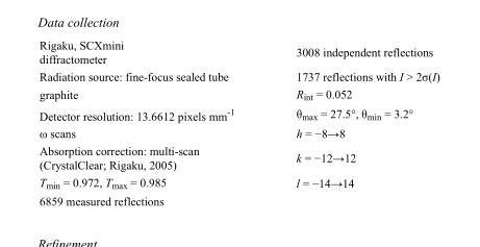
<table><tbody><tr><td>Rigaku, SCXmini diffractometer</td><td>3008 independent reflections</td></tr><tr><td>Radiation source: fine-focus sealed tube</td><td>1737 reflections with I &gt; 2σ(I)</td></tr><tr><td>graphite</td><td>R<sub>int</sub> = 0.052</td></tr><tr><td>Detector resolution: 13.6612 pixels mm<sup>-1</sup></td><td>θ<sub>max</sub> = 27.5°, θ<sub>min</sub> = 3.2°</td></tr><tr><td>ω scans</td><td>h = −8→8</td></tr><tr><td>Absorption correction: multi-scan (CrystalClear; Rigaku, 2005)</td><td>k = −12→12</td></tr><tr><td>T<sub>min</sub> = 0.972, T<sub>max</sub> = 0.985</td><td>l = −14→14</td></tr><tr><td>6859 measured reflections</td><td></td></tr></tbody></table>